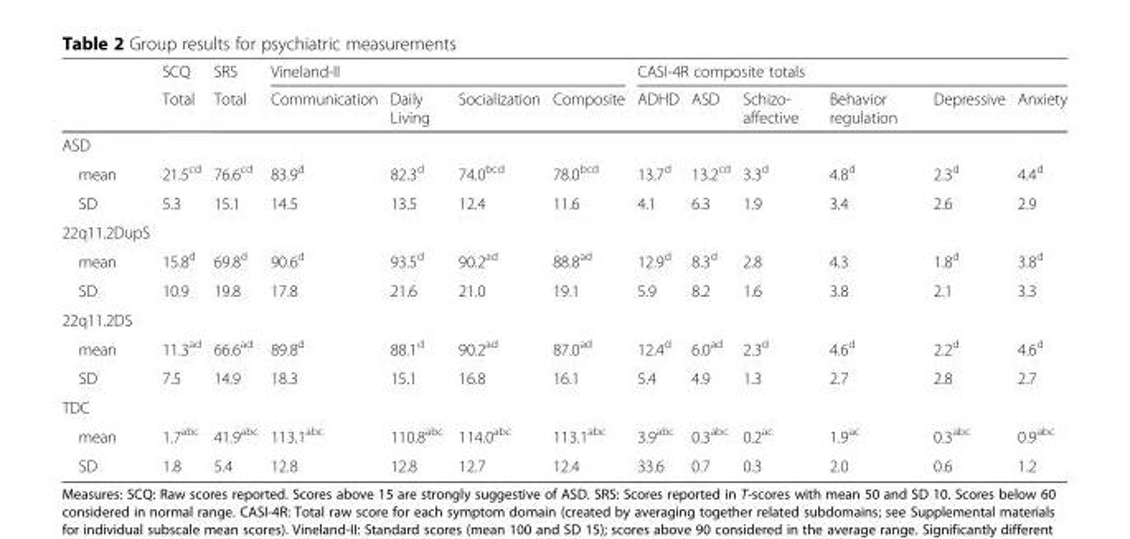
<table><thead><tr><td rowspan="2"></td><td rowspan="2">SCQ Total</td><td rowspan="2">SRS Total</td><td colspan="4">Vineland-II</td><td colspan="6">CASI-4R composite totals</td></tr><tr><td>Communication</td><td>Daily Living</td><td>Socialization</td><td>Composite</td><td>ADHD</td><td>ASD</td><td>Schizo- affective</td><td>Behavior regulation</td><td>Depressive</td><td>Anxiety</td></tr></thead><tbody><tr><td colspan="13">ASD</td></tr><tr><td>mean</td><td>21.5<sup>cd</sup></td><td>76.6<sup>cd</sup></td><td>83.9<sup>d</sup></td><td>82.3<sup>d</sup></td><td>74.0<sup>bcd</sup></td><td>78.0<sup>bcd</sup></td><td>13.7<sup>d</sup></td><td>13.2<sup>cd</sup></td><td>3.3<sup>d</sup></td><td>4.8<sup>d</sup></td><td>2.3<sup>d</sup></td><td>4.4<sup>d</sup></td></tr><tr><td>SD</td><td>5.3</td><td>15.1</td><td>14.5</td><td>13.5</td><td>12.4</td><td>11.6</td><td>4.1</td><td>6.3</td><td>1.9</td><td>3.4</td><td>2.6</td><td>2.9</td></tr><tr><td colspan="13">22q11.2DupS</td></tr><tr><td>mean</td><td>15.8<sup>d</sup></td><td>69.8<sup>d</sup></td><td>90.6<sup>d</sup></td><td>93.5<sup>d</sup></td><td>90.2<sup>ad</sup></td><td>88.8<sup>ad</sup></td><td>12.9<sup>d</sup></td><td>8.3<sup>d</sup></td><td>2.8</td><td>4.3</td><td>1.8<sup>d</sup></td><td>3.8<sup>d</sup></td></tr><tr><td>SD</td><td>10.9</td><td>19.8</td><td>17.8</td><td>21.6</td><td>21.0</td><td>19.1</td><td>5.9</td><td>8.2</td><td>1.6</td><td>3.8</td><td>2.1</td><td>3.3</td></tr><tr><td colspan="13">22q11.2DS</td></tr><tr><td>mean</td><td>11.3<sup>ad</sup></td><td>66.6<sup>ad</sup></td><td>89.8<sup>d</sup></td><td>88.1<sup>d</sup></td><td>90.2<sup>ad</sup></td><td>87.0<sup>ad</sup></td><td>12.4<sup>d</sup></td><td>6.0<sup>ad</sup></td><td>2.3<sup>d</sup></td><td>4.6<sup>d</sup></td><td>2.2<sup>d</sup></td><td>4.6<sup>d</sup></td></tr><tr><td>SD</td><td>7.5</td><td>14.9</td><td>18.3</td><td>15.1</td><td>16.8</td><td>16.1</td><td>5.4</td><td>4.9</td><td>1.3</td><td>2.7</td><td>2.8</td><td>2.7</td></tr><tr><td colspan="13">TDC</td></tr><tr><td>mean</td><td>1.7<sup>abc</sup></td><td>41.9<sup>abc</sup></td><td>113.1<sup>abc</sup></td><td>110.8<sup>abc</sup></td><td>114.0<sup>abc</sup></td><td>113.1<sup>abc</sup></td><td>3.9<sup>abc</sup></td><td>0.3<sup>abc</sup></td><td>0.2<sup>ac</sup></td><td>1.9<sup>ac</sup></td><td>0.3<sup>abc</sup></td><td>0.9<sup>abc</sup></td></tr><tr><td>SD</td><td>1.8</td><td>5.4</td><td>12.8</td><td>12.8</td><td>12.7</td><td>12.4</td><td>33.6</td><td>0.7</td><td>0.3</td><td>2.0</td><td>0.6</td><td>1.2</td></tr></tbody></table>